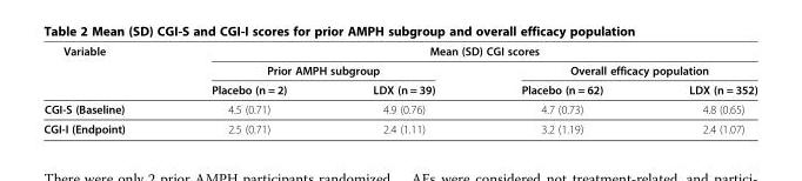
<table><thead><tr><td rowspan="3">Variable</td><td colspan="4">Mean (SD) CGI scores</td></tr><tr><td colspan="2">Prior AMPH subgroup</td><td colspan="2">Overall efficacy population</td></tr><tr><td>Placebo (n = 2)</td><td>LDX (n = 39)</td><td>Placebo (n = 62)</td><td>LDX (n = 352)</td></tr></thead><tbody><tr><td>CGI-S (Baseline)</td><td>4.5 (0.71)</td><td>4.9 (0.76)</td><td>4.7 (0.73)</td><td>4.8 (0.65)</td></tr><tr><td>CGI-I (Endpoint)</td><td>2.5 (0.71)</td><td>2.4 (1.11)</td><td>3.2 (1.19)</td><td>2.4 (1.07)</td></tr></tbody></table>